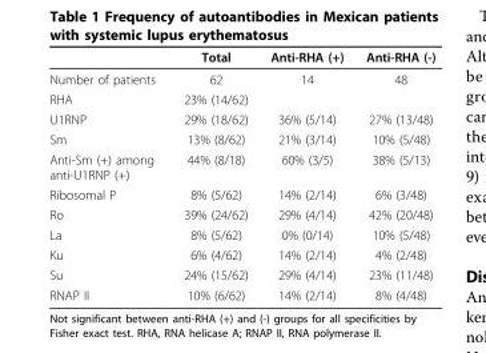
<table><thead><tr><td></td><td>Total</td><td>Anti-RHA (+)</td><td>Anti-RHA (-)</td></tr></thead><tbody><tr><td>Number of patients</td><td>62</td><td>14</td><td>48</td></tr><tr><td>RHA</td><td>23% (14/62)</td><td></td><td></td></tr><tr><td>U1RNP</td><td>29% (18/62)</td><td>36% (5/14)</td><td>27% (13/48)</td></tr><tr><td>Sm</td><td>13% (8/62)</td><td>21% (3/14)</td><td>10% (5/48)</td></tr><tr><td>Anti-Sm (+) among anti-U1RNP (+)</td><td>44% (8/18)</td><td>60% (3/5)</td><td>38% (5/13)</td></tr><tr><td>Ribosomal P</td><td>8% (5/62)</td><td>14% (2/14)</td><td>6% (3/48)</td></tr><tr><td>Ro</td><td>39% (24/62)</td><td>29% (4/14)</td><td>42% (20/48)</td></tr><tr><td>La</td><td>8% (5/62)</td><td>0% (0/14)</td><td>10% (5/48)</td></tr><tr><td>Ku</td><td>6% (4/62)</td><td>14% (2/14)</td><td>4% (2/48)</td></tr><tr><td>Su</td><td>24% (15/62)</td><td>29% (4/14)</td><td>23% (11/48)</td></tr><tr><td>RNAP II</td><td>10% (6/62)</td><td>14% (2/14)</td><td>8% (4/48)</td></tr></tbody></table>